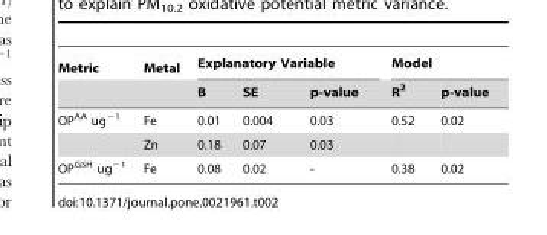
<table><thead><tr><td rowspan="2">Metric</td><td rowspan="2">Metal</td><td colspan="3">Explanatory Variable</td><td colspan="2">Model</td></tr><tr><td>B</td><td>SE</td><td>p-value</td><td>R<sup>2</sup></td><td>p-value</td></tr></thead><tbody><tr><td rowspan="2">OP<sup>AA</sup> ug<sup>−1</sup></td><td>Fe</td><td>0.01</td><td>0.004</td><td>0.03</td><td>0.52</td><td>0.02</td></tr><tr><td>Zn</td><td>0.18</td><td>0.07</td><td>0.03</td><td></td><td></td></tr><tr><td>OP<sup>GSH</sup> ug<sup>−1</sup></td><td>Fe</td><td>0.08</td><td>0.02</td><td>-</td><td>0.38</td><td>0.02</td></tr></tbody></table>